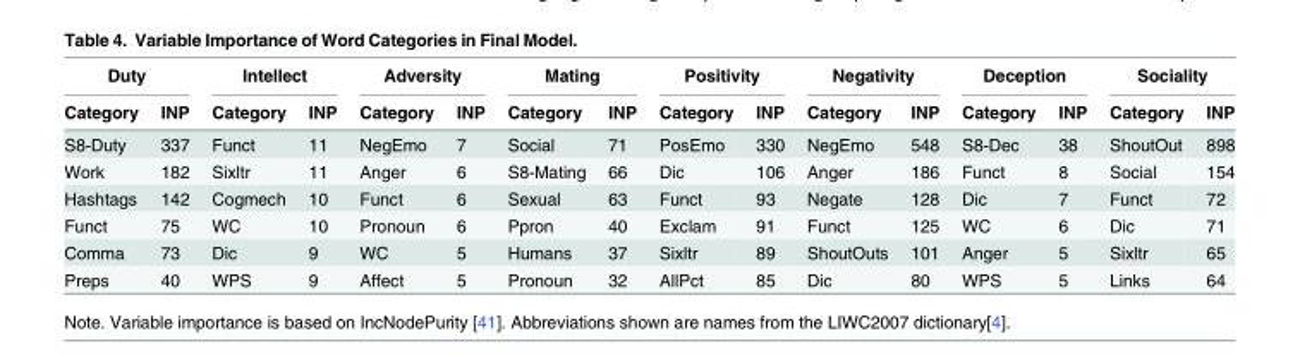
<table><thead><tr><td colspan="2">Duty</td><td colspan="2">Intellect</td><td colspan="2">Adversity</td><td colspan="2">Mating</td><td colspan="2">Positivity</td><td colspan="2">Negativity</td><td colspan="2">Deception</td><td colspan="2">Sociality</td></tr><tr><td>Category</td><td>INP</td><td>Category</td><td>INP</td><td>Category</td><td>INP</td><td>Category</td><td>INP</td><td>Category</td><td>INP</td><td>Category</td><td>INP</td><td>Category</td><td>INP</td><td>Category</td><td>INP</td></tr></thead><tbody><tr><td>S8-Duty</td><td>337</td><td>Funct</td><td>11</td><td>NegEmo</td><td>7</td><td>Social</td><td>71</td><td>PosEmo</td><td>330</td><td>NegEmo</td><td>548</td><td>S8-Dec</td><td>38</td><td>ShoutOut</td><td>898</td></tr><tr><td>Work</td><td>182</td><td>Sixltr</td><td>11</td><td>Anger</td><td>6</td><td>S8-Mating</td><td>66</td><td>Dic</td><td>106</td><td>Anger</td><td>186</td><td>Funct</td><td>8</td><td>Social</td><td>154</td></tr><tr><td>Hashtags</td><td>142</td><td>Cogmech</td><td>10</td><td>Funct</td><td>6</td><td>Sexual</td><td>63</td><td>Funct</td><td>93</td><td>Negate</td><td>128</td><td>Dic</td><td>7</td><td>Funct</td><td>72</td></tr><tr><td>Funct</td><td>75</td><td>WC</td><td>10</td><td>Pronoun</td><td>6</td><td>Ppron</td><td>40</td><td>Exclam</td><td>91</td><td>Funct</td><td>125</td><td>WC</td><td>6</td><td>Dic</td><td>71</td></tr><tr><td>Comma</td><td>73</td><td>Dic</td><td>9</td><td>WC</td><td>5</td><td>Humans</td><td>37</td><td>Sixltr</td><td>89</td><td>ShoutOuts</td><td>101</td><td>Anger</td><td>5</td><td>Sixltr</td><td>65</td></tr><tr><td>Preps</td><td>40</td><td>WPS</td><td>9</td><td>Affect</td><td>5</td><td>Pronoun</td><td>32</td><td>AllPct</td><td>85</td><td>Dic</td><td>80</td><td>WPS</td><td>5</td><td>Links</td><td>64</td></tr></tbody></table>